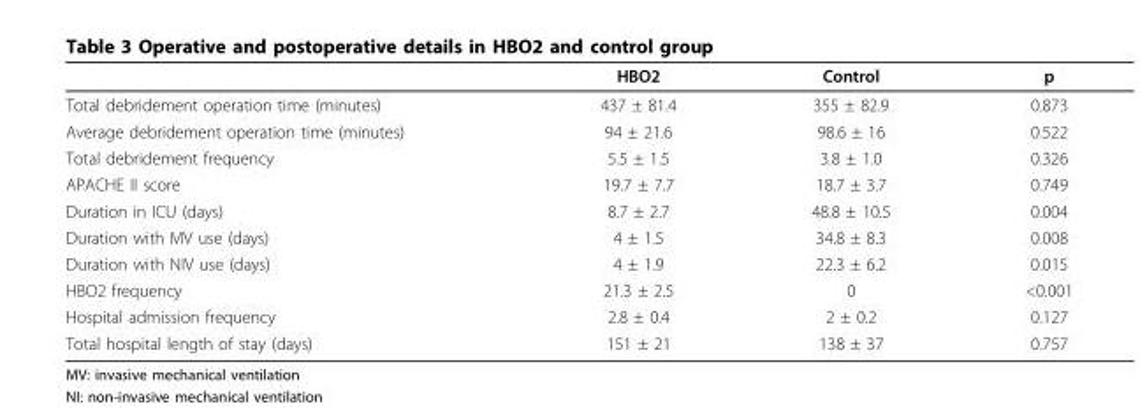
<table><thead><tr><td></td><td>HBO2</td><td>Control</td><td>p</td></tr></thead><tbody><tr><td>Total debridement operation time (minutes)</td><td>437 ± 81.4</td><td>355 ± 82.9</td><td>0.873</td></tr><tr><td>Average debridement operation time (minutes)</td><td>94 ± 21.6</td><td>98.6 ± 16</td><td>0.522</td></tr><tr><td>Total debridement frequency</td><td>5.5 ± 1.5</td><td>3.8 ± 1.0</td><td>0.326</td></tr><tr><td>APACHE II score</td><td>19.7 ± 7.7</td><td>18.7 ± 3.7</td><td>0.749</td></tr><tr><td>Duration in ICU (days)</td><td>8.7 ± 2.7</td><td>48.8 ± 10.5</td><td>0.004</td></tr><tr><td>Duration with MV use (days)</td><td>4 ± 1.5</td><td>34.8 ± 8.3</td><td>0.008</td></tr><tr><td>Duration with NIV use (days)</td><td>4 ± 1.9</td><td>22.3 ± 6.2</td><td>0.015</td></tr><tr><td>HBO2 frequency</td><td>21.3 ± 2.5</td><td>0</td><td>&lt;0.001</td></tr><tr><td>Hospital admission frequency</td><td>2.8 ± 0.4</td><td>2 ± 0.2</td><td>0.127</td></tr><tr><td>Total hospital length of stay (days)</td><td>151 ± 21</td><td>138 ± 37</td><td>0.757</td></tr></tbody></table>